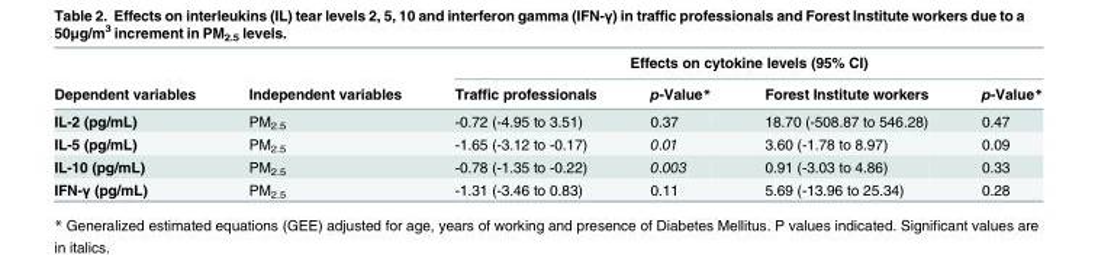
<table><thead><tr><td rowspan="2">Dependent variables</td><td rowspan="2">Independent variables</td><td colspan="4">Effects on cytokine levels (95% CI)</td></tr><tr><td>Traffic professionals</td><td>p-Value*</td><td>Forest Institute workers</td><td>p-Value*</td></tr></thead><tbody><tr><td>IL-2 (pg/mL)</td><td>PM<sub>2.5</sub></td><td>-0.72 (-4.95 to 3.51)</td><td>0.37</td><td>18.70 (-508.87 to 546.28)</td><td>0.47</td></tr><tr><td>IL-5 (pg/mL)</td><td>PM<sub>2.5</sub></td><td>-1.65 (-3.12 to -0.17)</td><td>0.01</td><td>3.60 (-1.78 to 8.97)</td><td>0.09</td></tr><tr><td>IL-10 (pg/mL)</td><td>PM<sub>2.5</sub></td><td>-0.78 (-1.35 to -0.22)</td><td>0.003</td><td>0.91 (-3.03 to 4.86)</td><td>0.33</td></tr><tr><td>IFN-γ (pg/mL)</td><td>PM<sub>2.5</sub></td><td>-1.31 (-3.46 to 0.83)</td><td>0.11</td><td>5.69 (-13.96 to 25.34)</td><td>0.28</td></tr></tbody></table>